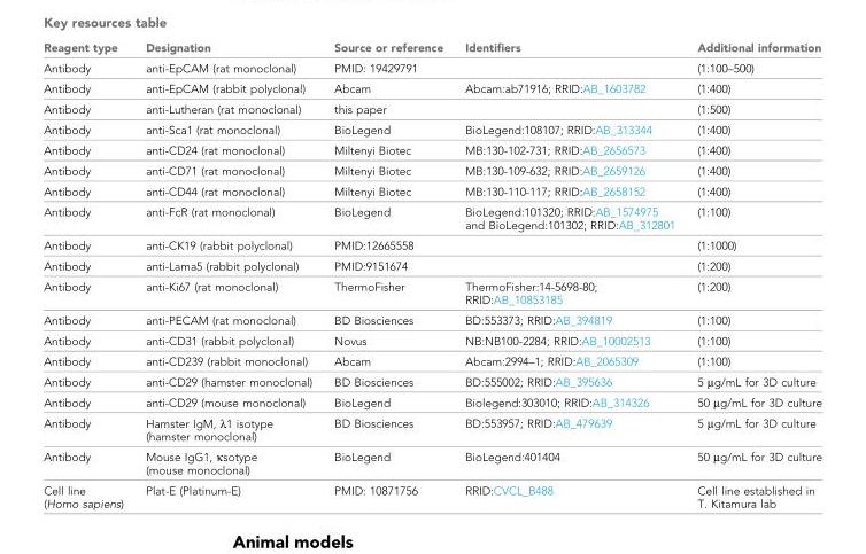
<table><thead><tr><td>Reagent type</td><td>Designation</td><td>Source or reference</td><td>Identifiers</td><td>Additional information</td></tr></thead><tbody><tr><td>Antibody</td><td>anti-EpCAM (rat monoclonal)</td><td>PMID: 19429791</td><td></td><td>(1:100–500)</td></tr><tr><td>Antibody</td><td>anti-EpCAM (rabbit polyclonal)</td><td>Abcam</td><td>Abcam:ab71916; RRID:AB_1603782</td><td>(1:400)</td></tr><tr><td>Antibody</td><td>anti-Lutheran (rat monoclonal)</td><td>this paper</td><td></td><td>(1:500)</td></tr><tr><td>Antibody</td><td>anti-Sca1 (rat monoclonal)</td><td>BioLegend</td><td>BioLegend:108107; RRID:AB_313344</td><td>(1:400)</td></tr><tr><td>Antibody</td><td>anti-CD24 (rat monoclonal)</td><td>Miltenyi Biotec</td><td>MB:130-102-731; RRID:AB_2656573</td><td>(1:400)</td></tr><tr><td>Antibody</td><td>anti-CD71 (rat monoclonal)</td><td>Miltenyi Biotec</td><td>MB:130-109-632; RRID:AB_2659126</td><td>(1:400)</td></tr><tr><td>Antibody</td><td>anti-CD44 (rat monoclonal)</td><td>Miltenyi Biotec</td><td>MB:130-110-117; RRID:AB_2658152</td><td>(1:400)</td></tr><tr><td>Antibody</td><td>anti-FcR (rat monoclonal)</td><td>BioLegend</td><td>BioLegend:101320; RRID:AB_1574975 and BioLegend:101302; RRID:AB_312801</td><td>(1:100)</td></tr><tr><td>Antibody</td><td>anti-CK19 (rabbit polyclonal)</td><td>PMID:12665558</td><td></td><td>(1:1000)</td></tr><tr><td>Antibody</td><td>anti-Lama5 (rabbit polyclonal)</td><td>PMID:9151674</td><td></td><td>(1:200)</td></tr><tr><td>Antibody</td><td>anti-Ki67 (rat monoclonal)</td><td>ThermoFisher</td><td>ThermoFisher:14-5698-80; RRID:AB_10853185</td><td>(1:200)</td></tr><tr><td>Antibody</td><td>anti-PECAM (rat monoclonal)</td><td>BD Biosciences</td><td>BD:553373; RRID:AB_394819</td><td>(1:100)</td></tr><tr><td>Antibody</td><td>anti-CD31 (rabbit polyclonal)</td><td>Novus</td><td>NB:NB100-2284; RRID:AB_10002513</td><td>(1:100)</td></tr><tr><td>Antibody</td><td>anti-CD239 (rabbit monoclonal)</td><td>Abcam</td><td>Abcam:2994–1; RRID:AB_2065309</td><td>(1:100)</td></tr><tr><td>Antibody</td><td>anti-CD29 (hamster monoclonal)</td><td>BD Biosciences</td><td>BD:555002; RRID:AB_395636</td><td>5 μg/mL for 3D culture</td></tr><tr><td>Antibody</td><td>anti-CD29 (mouse monoclonal)</td><td>BioLegend</td><td>Biolegend:303010; RRID:AB_314326</td><td>50 μg/mL for 3D culture</td></tr><tr><td>Antibody</td><td>Hamster IgM, λ1 isotype (hamster monoclonal)</td><td>BD Biosciences</td><td>BD:553957; RRID:AB_479639</td><td>5 μg/mL for 3D culture</td></tr><tr><td>Antibody</td><td>Mouse IgG1, κsotype (mouse monoclonal)</td><td>BioLegend</td><td>BioLegend:401404</td><td>50 μg/mL for 3D culture</td></tr><tr><td>Cell line (Homo sapiens)</td><td>Plat-E (Platinum-E)</td><td>PMID: 10871756</td><td>RRID:CVCL_B488</td><td>Cell line established in T. Kitamura lab</td></tr></tbody></table>